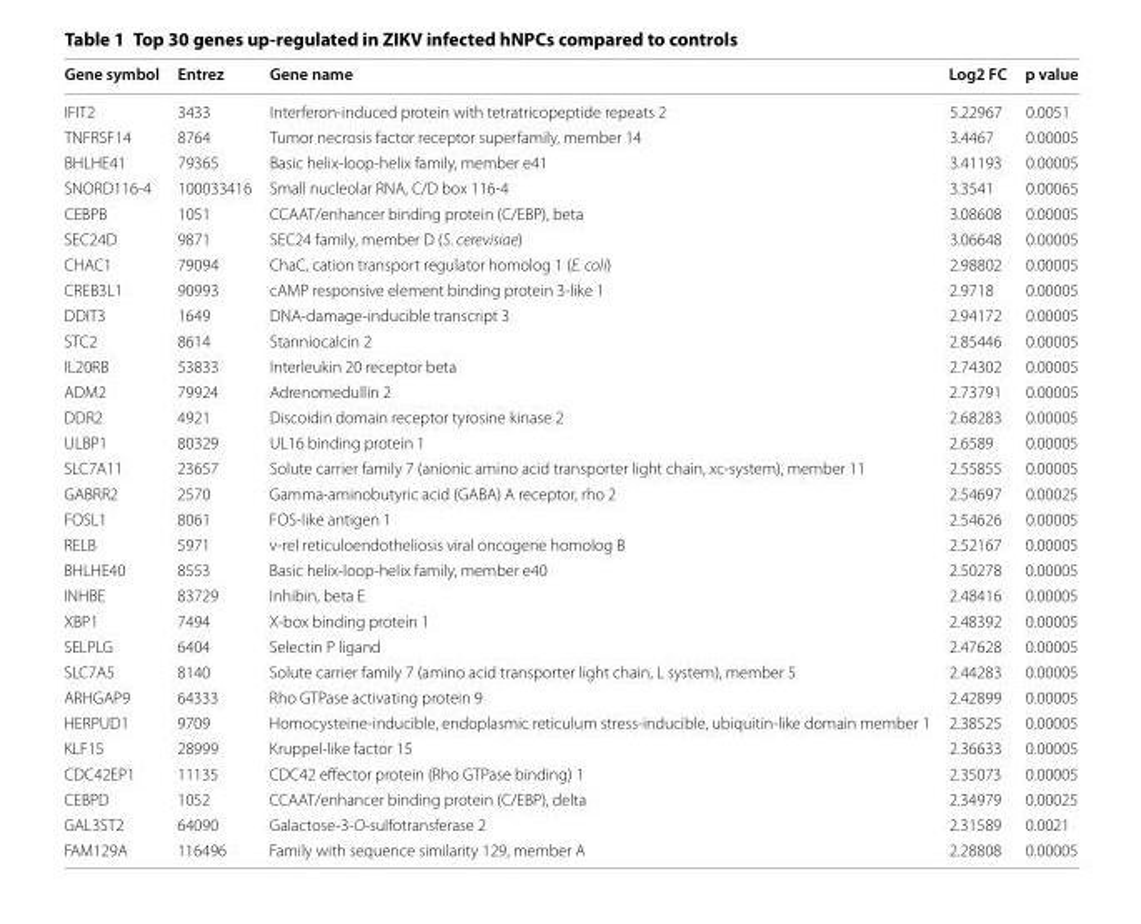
<table><thead><tr><td>Gene symbol</td><td>Entrez</td><td>Gene name</td><td>Log2 FC</td><td>p value</td></tr></thead><tbody><tr><td>IFIT2</td><td>3433</td><td>Interferon-induced protein with tetratricopeptide repeats 2</td><td>5.22967</td><td>0.0051</td></tr><tr><td>TNFRSF14</td><td>8764</td><td>Tumor necrosis factor receptor superfamily, member 14</td><td>3.4467</td><td>0.00005</td></tr><tr><td>BHLHE41</td><td>79365</td><td>Basic helix-loop-helix family, member e41</td><td>3.41193</td><td>0.00005</td></tr><tr><td>SNORD116-4</td><td>100033416</td><td>Small nucleolar RNA, C/D box 116-4</td><td>3.3541</td><td>0.00065</td></tr><tr><td>CEBPB</td><td>1051</td><td>CCAAT/enhancer binding protein (C/EBP), beta</td><td>3.08608</td><td>0.00005</td></tr><tr><td>SEC24D</td><td>9871</td><td>SEC24 family, member D (S. cerevisiae)</td><td>3.06648</td><td>0.00005</td></tr><tr><td>CHAC1</td><td>79094</td><td>ChaC, cation transport regulator homolog 1 (E. coli)</td><td>2.98802</td><td>0.00005</td></tr><tr><td>CREB3L1</td><td>90993</td><td>cAMP responsive element binding protein 3-like 1</td><td>2.9718</td><td>0.00005</td></tr><tr><td>DDIT3</td><td>1649</td><td>DNA-damage-inducible transcript 3</td><td>2.94172</td><td>0.00005</td></tr><tr><td>STC2</td><td>8614</td><td>Stanniocalcin 2</td><td>2.85446</td><td>0.00005</td></tr><tr><td>IL20RB</td><td>53833</td><td>Interleukin 20 receptor beta</td><td>2.74302</td><td>0.00005</td></tr><tr><td>ADM2</td><td>79924</td><td>Adrenomedullin 2</td><td>2.73791</td><td>0.00005</td></tr><tr><td>DDR2</td><td>4921</td><td>Discoidin domain receptor tyrosine kinase 2</td><td>2.68283</td><td>0.00005</td></tr><tr><td>ULBP1</td><td>80329</td><td>UL16 binding protein 1</td><td>2.6589</td><td>0.00005</td></tr><tr><td>SLC7A11</td><td>23657</td><td>Solute carrier family 7 (anionic amino acid transporter light chain, xc-system), member 11</td><td>2.55855</td><td>0.00005</td></tr><tr><td>GABRR2</td><td>2570</td><td>Gamma-aminobutyric acid (GABA) A receptor, rho 2</td><td>2.54697</td><td>0.00025</td></tr><tr><td>FOSL1</td><td>8061</td><td>FOS-like antigen 1</td><td>2.54626</td><td>0.00005</td></tr><tr><td>RELB</td><td>5971</td><td>v-rel reticuloendotheliosis viral oncogene homolog B</td><td>2.52167</td><td>0.00005</td></tr><tr><td>BHLHE40</td><td>8553</td><td>Basic helix-loop-helix family, member e40</td><td>2.50278</td><td>0.00005</td></tr><tr><td>INHBE</td><td>83729</td><td>Inhibin, beta E</td><td>2.48416</td><td>0.00005</td></tr><tr><td>XBP1</td><td>7494</td><td>X-box binding protein 1</td><td>2.48392</td><td>0.00005</td></tr><tr><td>SELPLG</td><td>6404</td><td>Selectin P ligand</td><td>2.47628</td><td>0.00005</td></tr><tr><td>SLC7A5</td><td>8140</td><td>Solute carrier family 7 (amino acid transporter light chain, L system), member 5</td><td>2.44283</td><td>0.00005</td></tr><tr><td>ARHGAP9</td><td>64333</td><td>Rho GTPase activating protein 9</td><td>2.42899</td><td>0.00005</td></tr><tr><td>HERPUD1</td><td>9709</td><td>Homocysteine-inducible, endoplasmic reticulum stress-inducible, ubiquitin-like domain member 1</td><td>2.38525</td><td>0.00005</td></tr><tr><td>KLF15</td><td>28999</td><td>Kruppel-like factor 15</td><td>2.36633</td><td>0.00005</td></tr><tr><td>CDC42EP1</td><td>11135</td><td>CDC42 effector protein (Rho GTPase binding) 1</td><td>2.35073</td><td>0.00005</td></tr><tr><td>CEBPD</td><td>1052</td><td>CCAAT/enhancer binding protein (C/EBP), delta</td><td>2.34979</td><td>0.00025</td></tr><tr><td>GAL3ST2</td><td>64090</td><td>Galactose-3-O-sulfotransferase 2</td><td>2.31589</td><td>0.0021</td></tr><tr><td>FAM129A</td><td>116496</td><td>Family with sequence similarity 129, member A</td><td>2.28808</td><td>0.00005</td></tr></tbody></table>